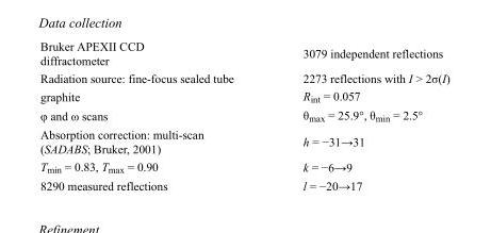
<table><tbody><tr><td>Bruker APEXII CCD diffractometer</td><td>3079 independent reflections</td></tr><tr><td>Radiation source: fine-focus sealed tube</td><td>2273 reflections with I &gt; 2σ(I)</td></tr><tr><td>graphite</td><td>R<sub>int</sub> = 0.057</td></tr><tr><td>φ and ω scans</td><td>θ<sub>max</sub> = 25.9°, θ<sub>min</sub> = 2.5°</td></tr><tr><td>Absorption correction: multi-scan (SADABS; Bruker, 2001)</td><td>h = −31→31</td></tr><tr><td>T<sub>min</sub> = 0.83, T<sub>max</sub> = 0.90</td><td>k = −6→9</td></tr><tr><td>8290 measured reflections</td><td>l = −20→17</td></tr></tbody></table>